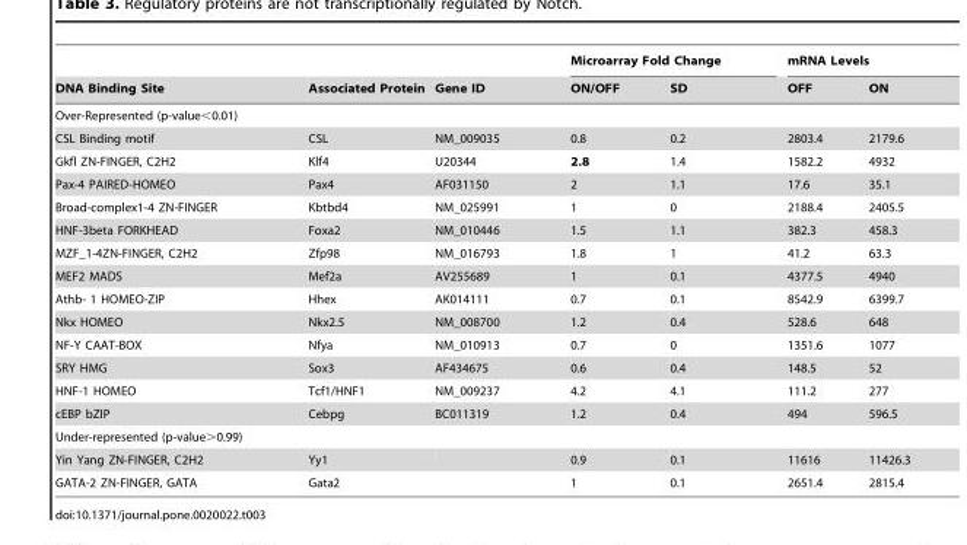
<table><thead><tr><td rowspan="2">DNA Binding Site</td><td rowspan="2">Associated Protein</td><td rowspan="2">Gene ID</td><td colspan="2">Microarray Fold Change</td><td colspan="2">mRNA Levels</td></tr><tr><td>ON/OFF</td><td>SD</td><td>OFF</td><td>ON</td></tr></thead><tbody><tr><td colspan="7">Over-Represented (p-value&lt;0.01)</td></tr><tr><td>CSL Binding motif</td><td>CSL</td><td>NM_009035</td><td>0.8</td><td>0.2</td><td>2803.4</td><td>2179.6</td></tr><tr><td>Gkfl ZN-FINGER, C2H2</td><td>Klf4</td><td>U20344</td><td>2.8</td><td>1.4</td><td>1582.2</td><td>4932</td></tr><tr><td>Pax-4 PAIRED-HOMEO</td><td>Pax4</td><td>AF031150</td><td>2</td><td>1.1</td><td>17.6</td><td>35.1</td></tr><tr><td>Broad-complex1-4 ZN-FINGER</td><td>Kbtbd4</td><td>NM_025991</td><td>1</td><td>0</td><td>2188.4</td><td>2405.5</td></tr><tr><td>HNF-3beta FORKHEAD</td><td>Foxa2</td><td>NM_010446</td><td>1.5</td><td>1.1</td><td>382.3</td><td>458.3</td></tr><tr><td>MZF_1-4ZN-FINGER, C2H2</td><td>Zfp98</td><td>NM_016793</td><td>1.8</td><td>1</td><td>41.2</td><td>63.3</td></tr><tr><td>MEF2 MADS</td><td>Mef2a</td><td>AV255689</td><td>1</td><td>0.1</td><td>4377.5</td><td>4940</td></tr><tr><td>Athb- 1 HOMEO-ZIP</td><td>Hhex</td><td>AK014111</td><td>0.7</td><td>0.1</td><td>8542.9</td><td>6399.7</td></tr><tr><td>Nkx HOMEO</td><td>Nkx2.5</td><td>NM_008700</td><td>1.2</td><td>0.4</td><td>528.6</td><td>648</td></tr><tr><td>NF-Y CAAT-BOX</td><td>Nfya</td><td>NM_010913</td><td>0.7</td><td>0</td><td>1351.6</td><td>1077</td></tr><tr><td>SRY HMG</td><td>Sox3</td><td>AF434675</td><td>0.6</td><td>0.4</td><td>148.5</td><td>52</td></tr><tr><td>HNF-1 HOMEO</td><td>Tcf1/HNF1</td><td>NM_009237</td><td>4.2</td><td>4.1</td><td>111.2</td><td>277</td></tr><tr><td>cEBP bZIP</td><td>Cebpg</td><td>BC011319</td><td>1.2</td><td>0.4</td><td>494</td><td>596.5</td></tr><tr><td colspan="7">Under-represented (p-value&gt;0.99)</td></tr><tr><td>Yin Yang ZN-FINGER, C2H2</td><td>Yy1</td><td></td><td>0.9</td><td>0.1</td><td>11616</td><td>11426.3</td></tr><tr><td>GATA-2 ZN-FINGER, GATA</td><td>Gata2</td><td></td><td>1</td><td>0.1</td><td>2651.4</td><td>2815.4</td></tr></tbody></table>